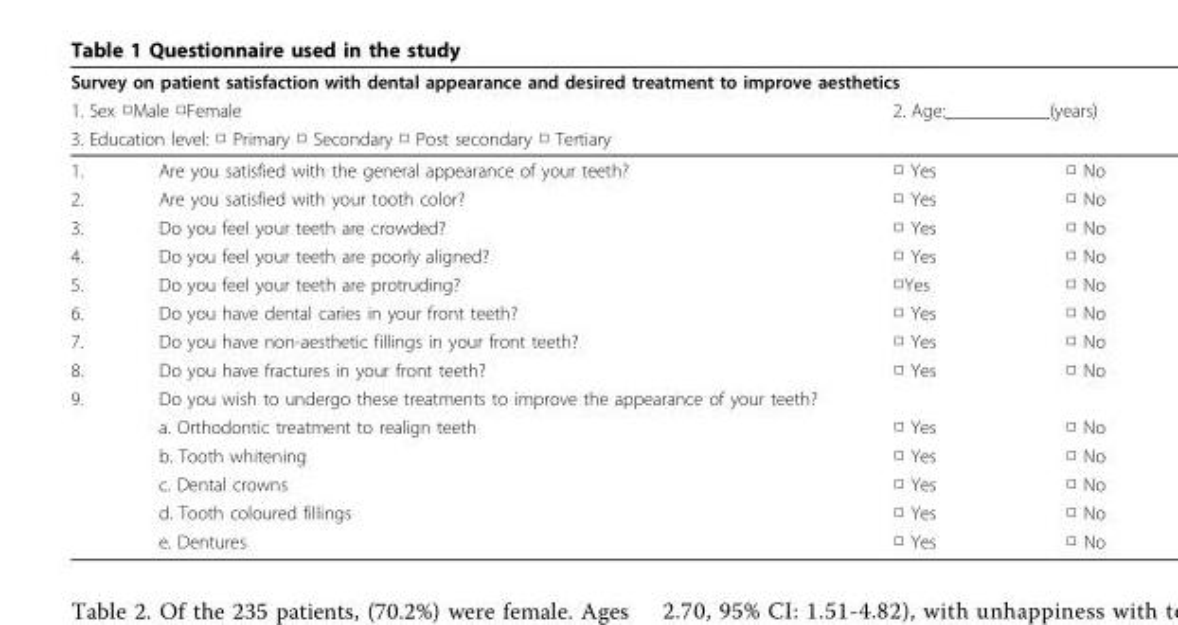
<table><thead><tr><td colspan="4">Survey on patient satisfaction with dental appearance and desired treatment to improve aesthetics</td></tr><tr><td colspan="2">1. Sex □Male □Female</td><td colspan="2">2. Age:___________(years)</td></tr><tr><td colspan="4">3. Education level: □ Primary □ Secondary □ Post secondary □ Tertiary</td></tr><tr><td>1.</td><td>Are you satisfied with the general appearance of your teeth?</td><td>□ Yes</td><td>□ No</td></tr></thead><tbody><tr><td>2.</td><td>Are you satisfied with your tooth color?</td><td>□ Yes</td><td>□ No</td></tr><tr><td>3.</td><td>Do you feel your teeth are crowded?</td><td>□ Yes</td><td>□ No</td></tr><tr><td>4.</td><td>Do you feel your teeth are poorly aligned?</td><td>□ Yes</td><td>□ No</td></tr><tr><td>5.</td><td>Do you feel your teeth are protruding?</td><td>□Yes</td><td>□ No</td></tr><tr><td>6.</td><td>Do you have dental caries in your front teeth?</td><td>□ Yes</td><td>□ No</td></tr><tr><td>7.</td><td>Do you have non-aesthetic fillings in your front teeth?</td><td>□ Yes</td><td>□ No</td></tr><tr><td>8.</td><td>Do you have fractures in your front teeth?</td><td>□ Yes</td><td>□ No</td></tr><tr><td rowspan="6">9.</td><td>Do you wish to undergo these treatments to improve the appearance of your teeth?</td><td></td><td></td></tr><tr><td>a. Orthodontic treatment to realign teeth</td><td>□ Yes</td><td>□ No</td></tr><tr><td>b. Tooth whitening</td><td>□ Yes</td><td>□ No</td></tr><tr><td>c. Dental crowns</td><td>□ Yes</td><td>□ No</td></tr><tr><td>d. Tooth coloured fillings</td><td>□ Yes</td><td>□ No</td></tr><tr><td>e. Dentures</td><td>□ Yes</td><td>□ No</td></tr></tbody></table>